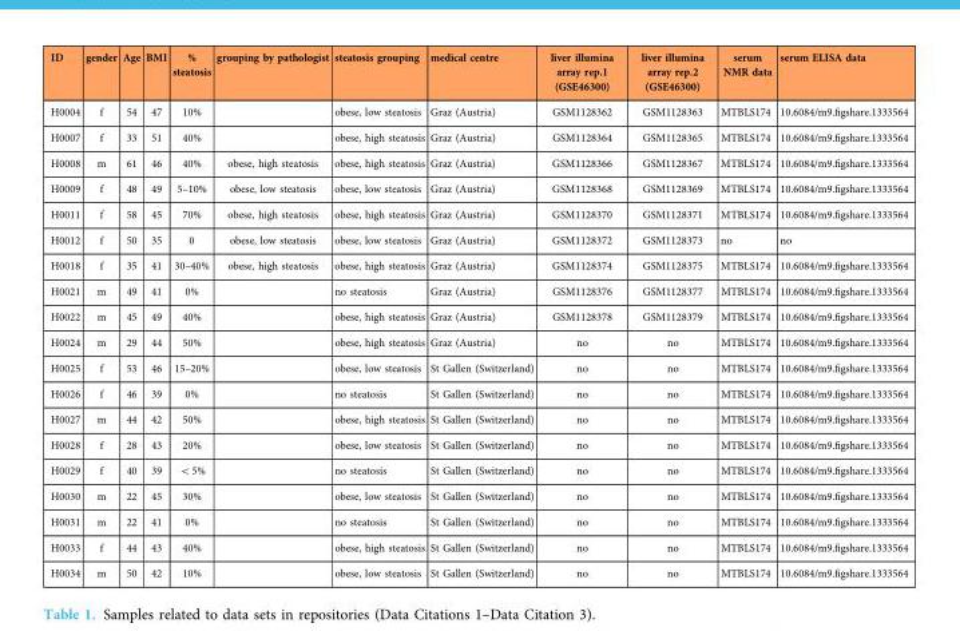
<table><thead><tr><td>ID</td><td>gender</td><td>Age</td><td>BMI</td><td>% steatosis</td><td>grouping by pathologist</td><td>steatosis grouping</td><td>medical centre</td><td>liver illumina array rep.1 (GSE46300)</td><td>liver illumina array rep.2 (GSE46300)</td><td>serum NMR data</td><td>serum ELISA data</td></tr></thead><tbody><tr><td>H0004</td><td>f</td><td>54</td><td>47</td><td>10%</td><td></td><td>obese, low steatosis</td><td>Graz (Austria)</td><td>GSM1128362</td><td>GSM1128363</td><td>MTBLS174</td><td>10.6084/m9.figshare.1333564</td></tr><tr><td>H0007</td><td>f</td><td>33</td><td>51</td><td>40%</td><td></td><td>obese, high steatosis</td><td>Graz (Austria)</td><td>GSM1128364</td><td>GSM1128365</td><td>MTBLS174</td><td>10.6084/m9.figshare.1333564</td></tr><tr><td>H0008</td><td>m</td><td>61</td><td>46</td><td>40%</td><td>obese, high steatosis</td><td>obese, high steatosis</td><td>Graz (Austria)</td><td>GSM1128366</td><td>GSM1128367</td><td>MTBLS174</td><td>10.6084/m9.figshare.1333564</td></tr><tr><td>H0009</td><td>f</td><td>48</td><td>49</td><td>5–10%</td><td>obese, low steatosis</td><td>obese, low steatosis</td><td>Graz (Austria)</td><td>GSM1128368</td><td>GSM1128369</td><td>MTBLS174</td><td>10.6084/m9.figshare.1333564</td></tr><tr><td>H0011</td><td>f</td><td>58</td><td>45</td><td>70%</td><td>obese, high steatosis</td><td>obese, high steatosis</td><td>Graz (Austria)</td><td>GSM1128370</td><td>GSM1128371</td><td>MTBLS174</td><td>10.6084/m9.figshare.1333564</td></tr><tr><td>H0012</td><td>f</td><td>50</td><td>35</td><td>0</td><td>obese, low steatosis</td><td>obese, low steatosis</td><td>Graz (Austria)</td><td>GSM1128372</td><td>GSM1128373</td><td>no</td><td>no</td></tr><tr><td>H0018</td><td>f</td><td>35</td><td>41</td><td>30–40%</td><td>obese, high steatosis</td><td>obese, high steatosis</td><td>Graz (Austria)</td><td>GSM1128374</td><td>GSM1128375</td><td>MTBLS174</td><td>10.6084/m9.figshare.1333564</td></tr><tr><td>H0021</td><td>m</td><td>49</td><td>41</td><td>0%</td><td></td><td>no steatosis</td><td>Graz (Austria)</td><td>GSM1128376</td><td>GSM1128377</td><td>MTBLS174</td><td>10.6084/m9.figshare.1333564</td></tr><tr><td>H0022</td><td>m</td><td>45</td><td>49</td><td>40%</td><td></td><td>obese, high steatosis</td><td>Graz (Austria)</td><td>GSM1128378</td><td>GSM1128379</td><td>MTBLS174</td><td>10.6084/m9.figshare.1333564</td></tr><tr><td>H0024</td><td>m</td><td>29</td><td>44</td><td>50%</td><td></td><td>obese, high steatosis</td><td>Graz (Austria)</td><td>no</td><td>no</td><td>MTBLS174</td><td>10.6084/m9.figshare.1333564</td></tr><tr><td>H0025</td><td>f</td><td>53</td><td>46</td><td>15–20%</td><td></td><td>obese, low steatosis</td><td>St Gallen (Switzerland)</td><td>no</td><td>no</td><td>MTBLS174</td><td>10.6084/m9.figshare.1333564</td></tr><tr><td>H0026</td><td>f</td><td>46</td><td>39</td><td>0%</td><td></td><td>no steatosis</td><td>St Gallen (Switzerland)</td><td>no</td><td>no</td><td>MTBLS174</td><td>10.6084/m9.figshare.1333564</td></tr><tr><td>H0027</td><td>m</td><td>44</td><td>42</td><td>50%</td><td></td><td>obese, high steatosis</td><td>St Gallen (Switzerland)</td><td>no</td><td>no</td><td>MTBLS174</td><td>10.6084/m9.figshare.1333564</td></tr><tr><td>H0028</td><td>f</td><td>28</td><td>43</td><td>20%</td><td></td><td>obese, low steatosis</td><td>St Gallen (Switzerland)</td><td>no</td><td>no</td><td>MTBLS174</td><td>10.6084/m9.figshare.1333564</td></tr><tr><td>H0029</td><td>f</td><td>40</td><td>39</td><td>&lt;5%</td><td></td><td>no steatosis</td><td>St Gallen (Switzerland)</td><td>no</td><td>no</td><td>MTBLS174</td><td>10.6084/m9.figshare.1333564</td></tr><tr><td>H0030</td><td>m</td><td>22</td><td>45</td><td>30%</td><td></td><td>obese, low steatosis</td><td>St Gallen (Switzerland)</td><td>no</td><td>no</td><td>MTBLS174</td><td>10.6084/m9.figshare.1333564</td></tr><tr><td>H0031</td><td>m</td><td>22</td><td>41</td><td>0%</td><td></td><td>no steatosis</td><td>St Gallen (Switzerland)</td><td>no</td><td>no</td><td>MTBLS174</td><td>10.6084/m9.figshare.1333564</td></tr><tr><td>H0033</td><td>f</td><td>44</td><td>43</td><td>40%</td><td></td><td>obese, high steatosis</td><td>St Gallen (Switzerland)</td><td>no</td><td>no</td><td>MTBLS174</td><td>10.6084/m9.figshare.1333564</td></tr><tr><td>H0034</td><td>m</td><td>50</td><td>42</td><td>10%</td><td></td><td>obese, low steatosis</td><td>St Gallen (Switzerland)</td><td>no</td><td>no</td><td>MTBLS174</td><td>10.6084/m9.figshare.1333564</td></tr></tbody></table>